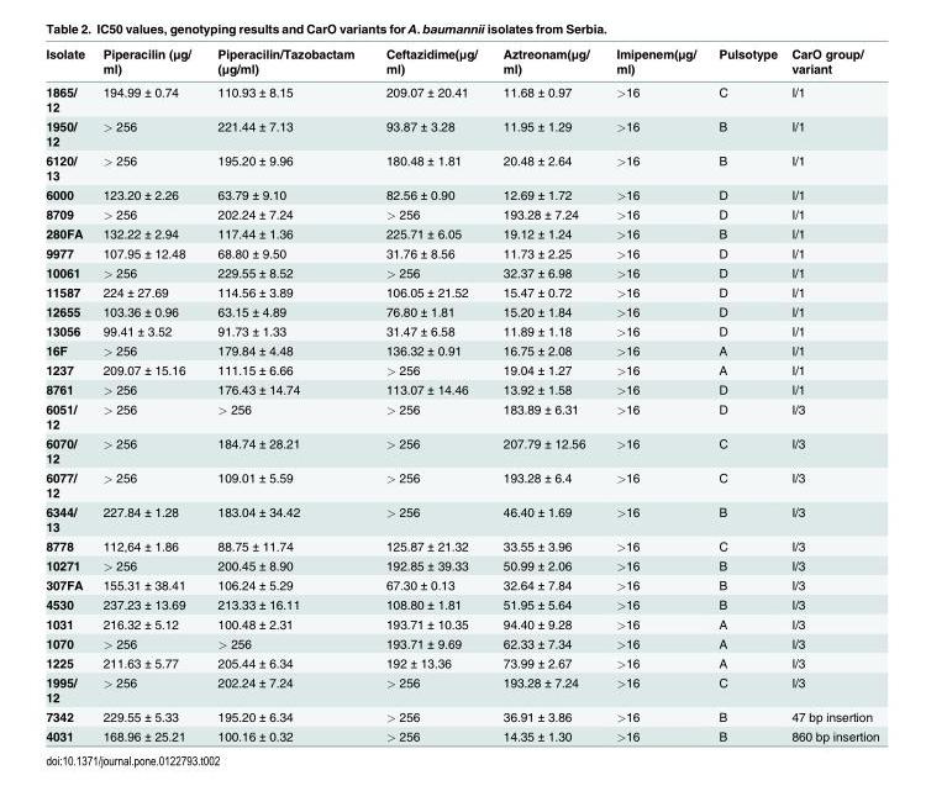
<table><thead><tr><td>Isolate</td><td>Piperacilin (μg/ ml)</td><td>Piperacilin/Tazobactam (μg/ml)</td><td>Ceftazidime(μg/ ml)</td><td>Aztreonam(μg/ ml)</td><td>Imipenem(μg/ ml)</td><td>Pulsotype</td><td>CarO group/ variant</td></tr></thead><tbody><tr><td>1865/ 12</td><td>194.99 ± 0.74</td><td>110.93 ± 8.15</td><td>209.07 ± 20.41</td><td>11.68 ± 0.97</td><td>&gt;16</td><td>C</td><td>I/1</td></tr><tr><td>1950/ 12</td><td>&gt; 256</td><td>221.44 ± 7.13</td><td>93.87 ± 3.28</td><td>11.95 ± 1.29</td><td>&gt;16</td><td>B</td><td>I/1</td></tr><tr><td>6120/ 13</td><td>&gt; 256</td><td>195.20 ± 9.96</td><td>180.48 ± 1.81</td><td>20.48 ± 2.64</td><td>&gt;16</td><td>B</td><td>I/1</td></tr><tr><td>6000</td><td>123.20 ± 2.26</td><td>63.79 ± 9.10</td><td>82.56 ± 0.90</td><td>12.69 ± 1.72</td><td>&gt;16</td><td>D</td><td>I/1</td></tr><tr><td>8709</td><td>&gt; 256</td><td>202.24 ± 7.24</td><td>&gt; 256</td><td>193.28 ± 7.24</td><td>&gt;16</td><td>D</td><td>I/1</td></tr><tr><td>280FA</td><td>132.22 ± 2.94</td><td>117.44 ± 1.36</td><td>225.71 ± 6.05</td><td>19.12 ± 1.24</td><td>&gt;16</td><td>B</td><td>I/1</td></tr><tr><td>9977</td><td>107.95 ± 12.48</td><td>68.80 ± 9.50</td><td>31.76 ± 8.56</td><td>11.73 ± 2.25</td><td>&gt;16</td><td>D</td><td>I/1</td></tr><tr><td>10061</td><td>&gt; 256</td><td>229.55 ± 8.52</td><td>&gt; 256</td><td>32.37 ± 6.98</td><td>&gt;16</td><td>D</td><td>I/1</td></tr><tr><td>11587</td><td>224 ± 27.69</td><td>114.56 ± 3.89</td><td>106.05 ± 21.52</td><td>15.47 ± 0.72</td><td>&gt;16</td><td>D</td><td>I/1</td></tr><tr><td>12655</td><td>103.36 ± 0.96</td><td>63.15 ± 4.89</td><td>76.80 ± 1.81</td><td>15.20 ± 1.84</td><td>&gt;16</td><td>D</td><td>I/1</td></tr><tr><td>13056</td><td>99.41 ± 3.52</td><td>91.73 ± 1.33</td><td>31.47 ± 6.58</td><td>11.89 ± 1.18</td><td>&gt;16</td><td>D</td><td>I/1</td></tr><tr><td>16F</td><td>&gt; 256</td><td>179.84 ± 4.48</td><td>136.32 ± 0.91</td><td>16.75 ± 2.08</td><td>&gt;16</td><td>A</td><td>I/1</td></tr><tr><td>1237</td><td>209.07 ± 15.16</td><td>111.15 ± 6.66</td><td>&gt; 256</td><td>19.04 ± 1.27</td><td>&gt;16</td><td>A</td><td>I/1</td></tr><tr><td>8761</td><td>&gt; 256</td><td>176.43 ± 14.74</td><td>113.07 ± 14.46</td><td>13.92 ± 1.58</td><td>&gt;16</td><td>D</td><td>I/1</td></tr><tr><td>6051/ 12</td><td>&gt; 256</td><td>&gt; 256</td><td>&gt; 256</td><td>183.89 ± 6.31</td><td>&gt;16</td><td>D</td><td>I/3</td></tr><tr><td>6070/ 12</td><td>&gt; 256</td><td>184.74 ± 28.21</td><td>&gt; 256</td><td>207.79 ± 12.56</td><td>&gt;16</td><td>C</td><td>I/3</td></tr><tr><td>6077/ 12</td><td>&gt; 256</td><td>109.01 ± 5.59</td><td>&gt; 256</td><td>193.28 ± 6.4</td><td>&gt;16</td><td>C</td><td>I/3</td></tr><tr><td>6344/ 13</td><td>227.84 ± 1.28</td><td>183.04 ± 34.42</td><td>&gt; 256</td><td>46.40 ± 1.69</td><td>&gt;16</td><td>B</td><td>I/3</td></tr><tr><td>8778</td><td>112,64 ± 1.86</td><td>88.75 ± 11.74</td><td>125.87 ± 21.32</td><td>33.55 ± 3.96</td><td>&gt;16</td><td>C</td><td>I/3</td></tr><tr><td>10271</td><td>&gt; 256</td><td>200.45 ± 8.90</td><td>192.85 ± 39.33</td><td>50.99 ± 2.06</td><td>&gt;16</td><td>B</td><td>I/3</td></tr><tr><td>307FA</td><td>155.31 ± 38.41</td><td>106.24 ± 5.29</td><td>67.30 ± 0.13</td><td>32.64 ± 7.84</td><td>&gt;16</td><td>B</td><td>I/3</td></tr><tr><td>4530</td><td>237.23 ± 13.69</td><td>213.33 ± 16.11</td><td>108.80 ± 1.81</td><td>51.95 ± 5.64</td><td>&gt;16</td><td>B</td><td>I/3</td></tr><tr><td>1031</td><td>216.32 ± 5.12</td><td>100.48 ± 2.31</td><td>193.71 ± 10.35</td><td>94.40 ± 9.28</td><td>&gt;16</td><td>A</td><td>I/3</td></tr><tr><td>1070</td><td>&gt; 256</td><td>&gt; 256</td><td>193.71 ± 9.69</td><td>62.33 ± 7.34</td><td>&gt;16</td><td>A</td><td>I/3</td></tr><tr><td>1225</td><td>211.63 ± 5.77</td><td>205.44 ± 6.34</td><td>192 ± 13.36</td><td>73.99 ± 2.67</td><td>&gt;16</td><td>A</td><td>I/3</td></tr><tr><td>1995/ 12</td><td>&gt; 256</td><td>202.24 ± 7.24</td><td>&gt; 256</td><td>193.28 ± 7.24</td><td>&gt;16</td><td>C</td><td>I/3</td></tr><tr><td>7342</td><td>229.55 ± 5.33</td><td>195.20 ± 6.34</td><td>&gt; 256</td><td>36.91 ± 3.86</td><td>&gt;16</td><td>B</td><td>47 bp insertion</td></tr><tr><td>4031</td><td>168.96 ± 25.21</td><td>100.16 ± 0.32</td><td>&gt; 256</td><td>14.35 ± 1.30</td><td>&gt;16</td><td>B</td><td>860 bp insertion</td></tr></tbody></table>